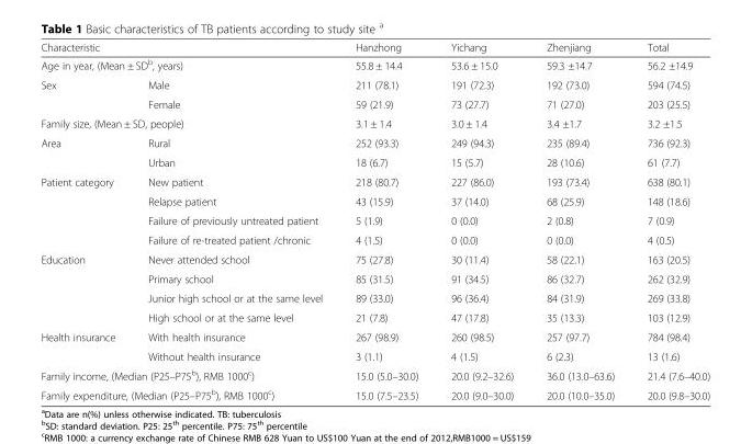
<table><thead><tr><td rowspan="2" colspan="2">Characteristic Age in year, (Mean ± SD<sup>b</sup>, years)</td><td rowspan="3">Hanzhong 55.8 ± 14.4 211 (78.1)</td><td rowspan="3">Yichang 53.6 ± 15.0 191 (72.3)</td><td rowspan="3">Zhenjiang 59.3 ±14.7 192 (73.0)</td><td rowspan="3">Total 56.2 ±14.9 594 (74.5)</td></tr><tr></tr><tr><td>Sex</td><td>Male</td></tr></thead><tbody><tr><td></td><td>Female</td><td>59 (21.9)</td><td>73 (27.7)</td><td>71 (27.0)</td><td>203 (25.5)</td></tr><tr><td colspan="2">Family size, (Mean ± SD, people)</td><td>3.1 ± 1.4</td><td>3.0 ± 1.4</td><td>3.4 ±1.7</td><td>3.2 ±1.5</td></tr><tr><td rowspan="2">Area</td><td>Rural</td><td>252 (93.3)</td><td>249 (94.3)</td><td>235 (89.4)</td><td>736 (92.3)</td></tr><tr><td>Urban</td><td>18 (6.7)</td><td>15 (5.7)</td><td>28 (10.6)</td><td>61 (7.7)</td></tr><tr><td rowspan="4">Patient category</td><td>New patient</td><td>218 (80.7)</td><td>227 (86.0)</td><td>193 (73.4)</td><td>638 (80.1)</td></tr><tr><td>Relapse patient</td><td>43 (15.9)</td><td>37 (14.0)</td><td>68 (25.9)</td><td>148 (18.6)</td></tr><tr><td>Failure of previously untreated patient</td><td>5 (1.9)</td><td>0 (0.0)</td><td>2 (0.8)</td><td>7 (0.9)</td></tr><tr><td>Failure of re-treated patient /chronic</td><td>4 (1.5)</td><td>0 (0.0)</td><td>0 (0.0)</td><td>4 (0.5)</td></tr><tr><td rowspan="4">Education</td><td>Never attended school</td><td>75 (27.8)</td><td>30 (11.4)</td><td>58 (22.1)</td><td>163 (20.5)</td></tr><tr><td>Primary school</td><td>85 (31.5)</td><td>91 (34.5)</td><td>86 (32.7)</td><td>262 (32.9)</td></tr><tr><td>Junior high school or at the same level</td><td>89 (33.0)</td><td>96 (36.4)</td><td>84 (31.9)</td><td>269 (33.8)</td></tr><tr><td>High school or at the same level</td><td>21 (7.8)</td><td>47 (17.8)</td><td>35 (13.3)</td><td>103 (12.9)</td></tr><tr><td rowspan="2">Health insurance</td><td>With health insurance</td><td>267 (98.9)</td><td>260 (98.5)</td><td>257 (97.7)</td><td>784 (98.4)</td></tr><tr><td>Without health insurance</td><td>3 (1.1)</td><td>4 (1.5)</td><td>6 (2.3)</td><td>13 (1.6)</td></tr><tr><td colspan="2">Family income, (Median (P25–P75<sup>b</sup>), RMB 1000<sup>c</sup>)</td><td>15.0 (5.0–30.0)</td><td>20.0 (9.2–32.6)</td><td>36.0 (13.0–63.6)</td><td>21.4 (7.6–40.0)</td></tr><tr><td colspan="2">Family expenditure, (Median (P25–P75<sup>b</sup>), RMB 1000<sup>c</sup>)</td><td>15.0 (7.5–23.5)</td><td>20.0 (9.0–30.0)</td><td>20.0 (10.0–35.0)</td><td>20.0 (9.8–30.0)</td></tr></tbody></table>